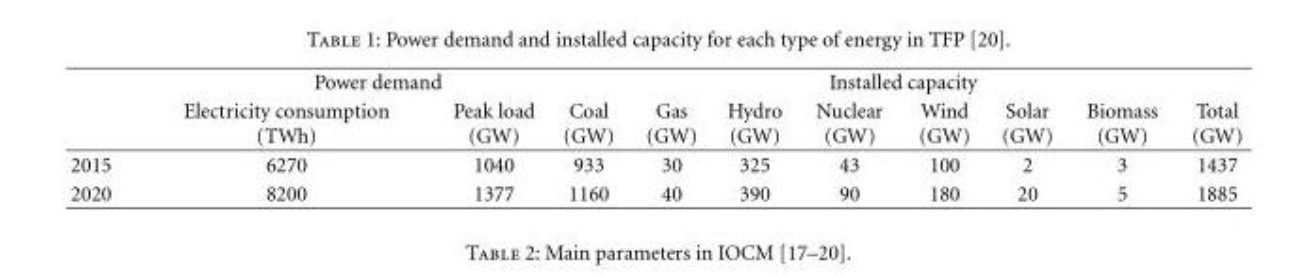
<table><thead><tr><td rowspan="2"></td><td colspan="2">Power demand</td><td colspan="8">Installed capacity</td></tr><tr><td>Electricity consumption (TWh)</td><td>Peak load (GW)</td><td>Coal (GW)</td><td>Gas (GW)</td><td>Hydro (GW)</td><td>Nuclear (GW)</td><td>Wind (GW)</td><td>Solar (GW)</td><td>Biomass (GW)</td><td>Total (GW)</td></tr></thead><tbody><tr><td>2015</td><td>6270</td><td>1040</td><td>933</td><td>30</td><td>325</td><td>43</td><td>100</td><td>2</td><td>3</td><td>1437</td></tr><tr><td>2020</td><td>8200</td><td>1377</td><td>1160</td><td>40</td><td>390</td><td>90</td><td>180</td><td>20</td><td>5</td><td>1885</td></tr></tbody></table>